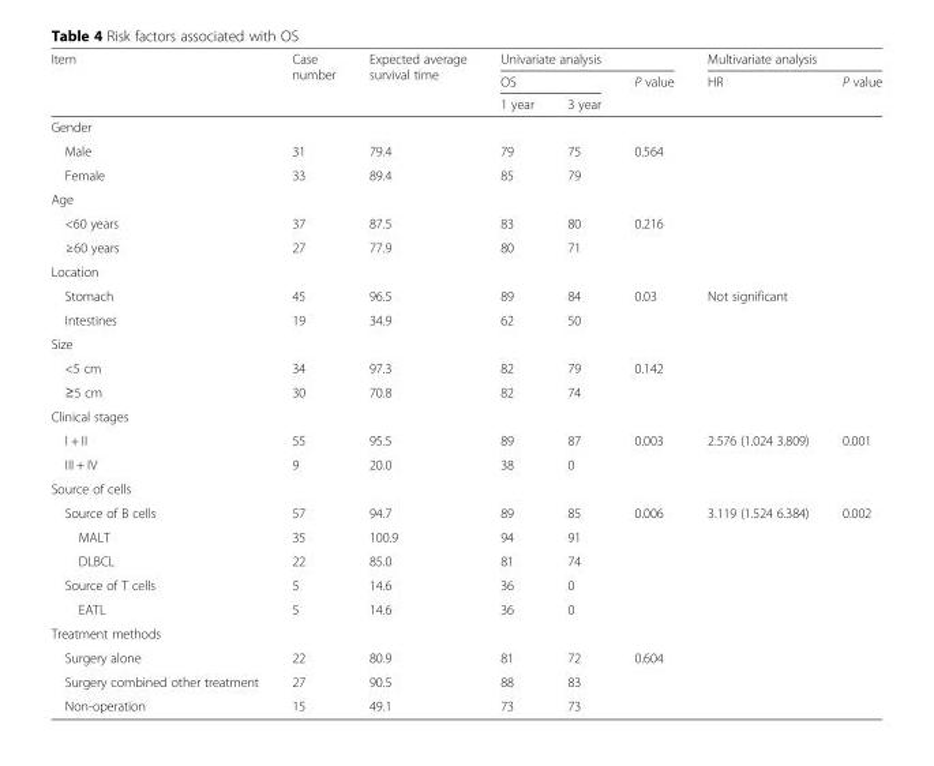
<table><thead><tr><td rowspan="3">Item</td><td rowspan="3">Case number</td><td rowspan="3">Expected average survival time</td><td colspan="3">Univariate analysis</td><td colspan="2">Multivariate analysis</td></tr><tr><td colspan="2">OS</td><td rowspan="2">P value</td><td rowspan="2">HR</td><td rowspan="2">P value</td></tr><tr><td>1 year</td><td>3 year</td></tr></thead><tbody><tr><td colspan="8">Gender</td></tr><tr><td>Male</td><td>31</td><td>79.4</td><td>79</td><td>75</td><td>0.564</td><td></td><td></td></tr><tr><td>Female</td><td>33</td><td>89.4</td><td>85</td><td>79</td><td></td><td></td><td></td></tr><tr><td colspan="8">Age</td></tr><tr><td>&lt;60 years</td><td>37</td><td>87.5</td><td>83</td><td>80</td><td>0.216</td><td></td><td></td></tr><tr><td>≥60 years</td><td>27</td><td>77.9</td><td>80</td><td>71</td><td></td><td></td><td></td></tr><tr><td colspan="8">Location</td></tr><tr><td>Stomach</td><td>45</td><td>96.5</td><td>89</td><td>84</td><td>0.03</td><td>Not significant</td><td></td></tr><tr><td>Intestines</td><td>19</td><td>34.9</td><td>62</td><td>50</td><td></td><td></td><td></td></tr><tr><td colspan="8">Size</td></tr><tr><td>&lt;5 cm</td><td>34</td><td>97.3</td><td>82</td><td>79</td><td>0.142</td><td></td><td></td></tr><tr><td>≥5 cm</td><td>30</td><td>70.8</td><td>82</td><td>74</td><td></td><td></td><td></td></tr><tr><td colspan="8">Clinical stages</td></tr><tr><td>I + II</td><td>55</td><td>95.5</td><td>89</td><td>87</td><td>0.003</td><td>2.576 (1.024 3.809)</td><td>0.001</td></tr><tr><td>III + IV</td><td>9</td><td>20.0</td><td>38</td><td>0</td><td></td><td></td><td></td></tr><tr><td colspan="8">Source of cells</td></tr><tr><td>Source of B cells</td><td>57</td><td>94.7</td><td>89</td><td>85</td><td>0.006</td><td>3.119 (1.524 6.384)</td><td>0.002</td></tr><tr><td>MALT</td><td>35</td><td>100.9</td><td>94</td><td>91</td><td></td><td></td><td></td></tr><tr><td>DLBCL</td><td>22</td><td>85.0</td><td>81</td><td>74</td><td></td><td></td><td></td></tr><tr><td>Source of T cells</td><td>5</td><td>14.6</td><td>36</td><td>0</td><td></td><td></td><td></td></tr><tr><td>EATL</td><td>5</td><td>14.6</td><td>36</td><td>0</td><td></td><td></td><td></td></tr><tr><td colspan="8">Treatment methods</td></tr><tr><td>Surgery alone</td><td>22</td><td>80.9</td><td>81</td><td>72</td><td>0.604</td><td></td><td></td></tr><tr><td>Surgery combined other treatment</td><td>27</td><td>90.5</td><td>88</td><td>83</td><td></td><td></td><td></td></tr><tr><td>Non-operation</td><td>15</td><td>49.1</td><td>73</td><td>73</td><td></td><td></td><td></td></tr></tbody></table>